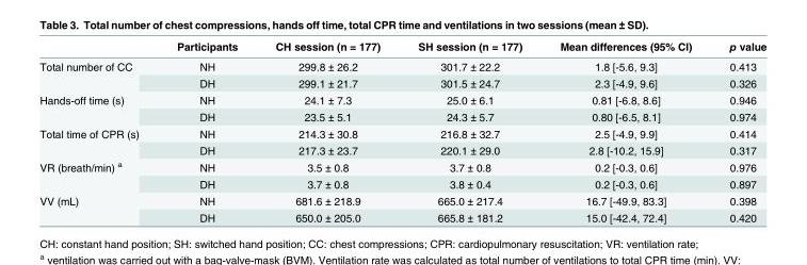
<table><thead><tr><td></td><td>Participants</td><td>CH session (n = 177)</td><td>SH session (n = 177)</td><td>Mean differences (95% CI)</td><td>p value</td></tr></thead><tbody><tr><td rowspan="2">Total number of CC</td><td>NH</td><td>299.8 ± 26.2</td><td>301.7 ± 22.2</td><td>1.8 [-5.6, 9.3]</td><td>0.413</td></tr><tr><td>DH</td><td>299.1 ± 21.7</td><td>301.5 ± 24.7</td><td>2.3 [-4.9, 9.6]</td><td>0.326</td></tr><tr><td rowspan="2">Hands-off time (s)</td><td>NH</td><td>24.1 ± 7.3</td><td>25.0 ± 6.1</td><td>0.81 [-6.8, 8.6]</td><td>0.946</td></tr><tr><td>DH</td><td>23.5 ± 5.1</td><td>24.3 ± 5.7</td><td>0.80 [-6.5, 8.1]</td><td>0.974</td></tr><tr><td rowspan="2">Total time of CPR (s)</td><td>NH</td><td>214.3 ± 30.8</td><td>216.8 ± 32.7</td><td>2.5 [-4.9, 9.9]</td><td>0.414</td></tr><tr><td>DH</td><td>217.3 ± 23.7</td><td>220.1 ± 29.0</td><td>2.8 [-10.2, 15.9]</td><td>0.317</td></tr><tr><td rowspan="2">VR (breath/min) <sup>a</sup></td><td>NH</td><td>3.5 ± 0.8</td><td>3.7 ± 0.8</td><td>0.2 [-0.3, 0.6]</td><td>0.976</td></tr><tr><td>DH</td><td>3.7 ± 0.8</td><td>3.8 ± 0.4</td><td>0.2 [-0.3, 0.6]</td><td>0.897</td></tr><tr><td rowspan="2">VV (mL)</td><td>NH</td><td>681.6 ± 218.9</td><td>665.0 ± 217.4</td><td>16.7 [-49.9, 83.3]</td><td>0.398</td></tr><tr><td>DH</td><td>650.0 ± 205.0</td><td>665.8 ± 181.2</td><td>15.0 [-42.4, 72.4]</td><td>0.420</td></tr></tbody></table>